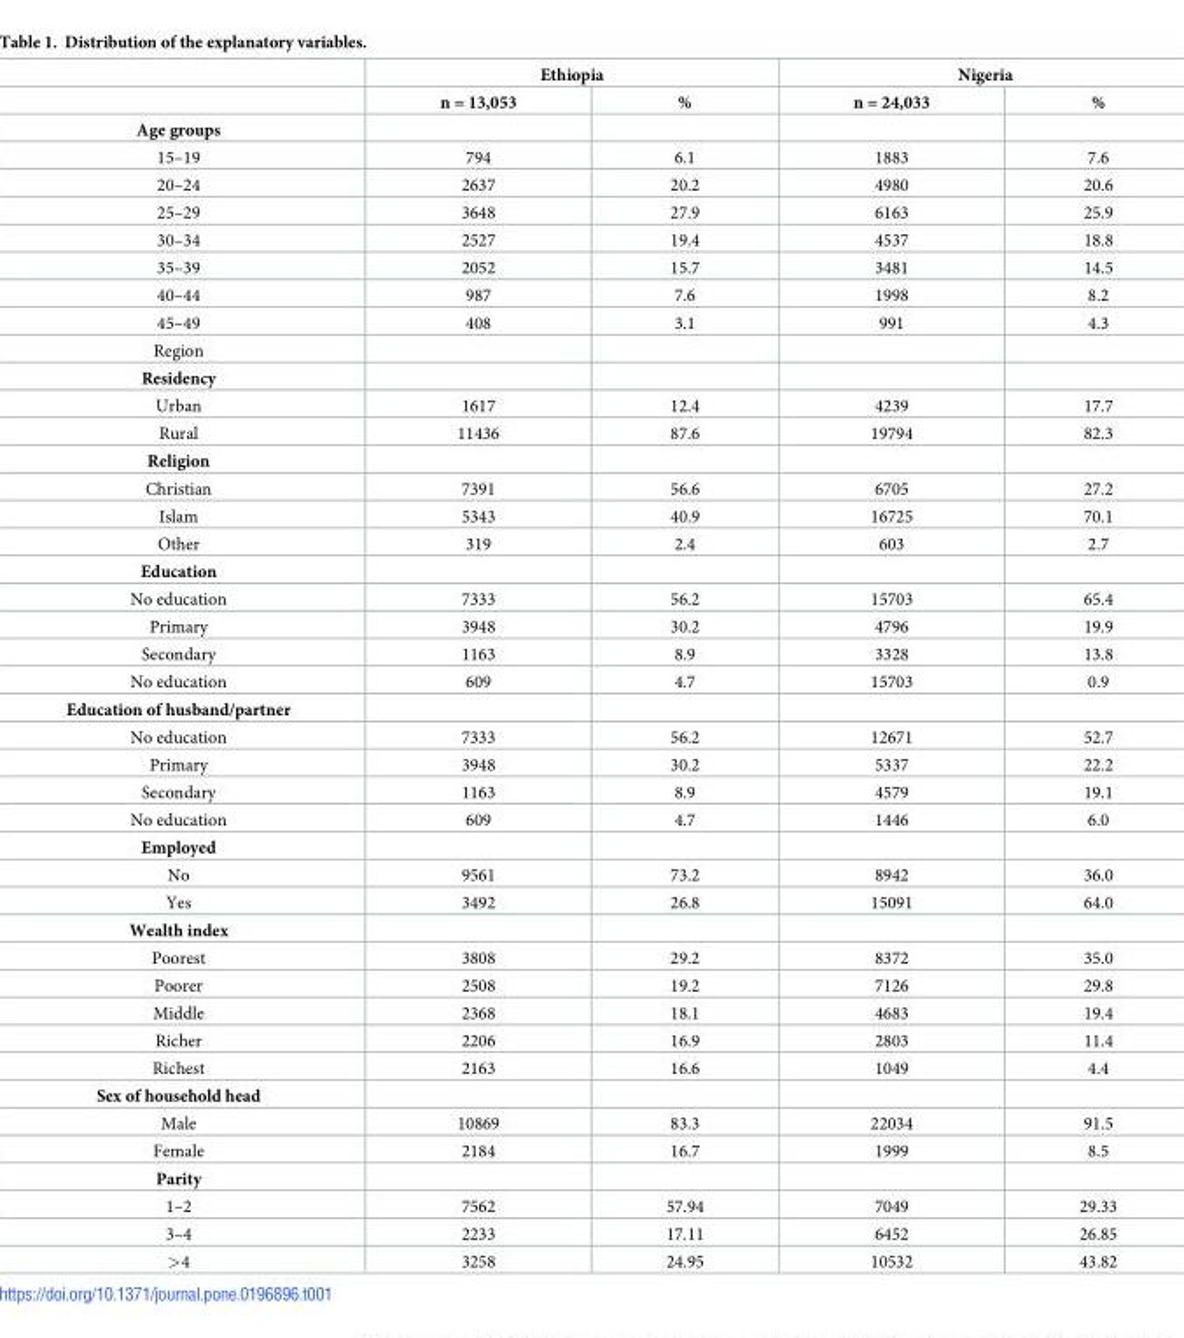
<table><thead><tr><td rowspan="2"></td><td colspan="2">Ethiopia</td><td colspan="2">Nigeria</td></tr><tr><td>n = 13,053</td><td>%</td><td>n = 24,033</td><td>%</td></tr></thead><tbody><tr><td colspan="5">Age groups</td></tr><tr><td>15–19</td><td>794</td><td>6.1</td><td>1883</td><td>7.6</td></tr><tr><td>20–24</td><td>2637</td><td>20.2</td><td>4980</td><td>20.6</td></tr><tr><td>25–29</td><td>3648</td><td>27.9</td><td>6163</td><td>25.9</td></tr><tr><td>30–34</td><td>2527</td><td>19.4</td><td>4537</td><td>18.8</td></tr><tr><td>35–39</td><td>2052</td><td>15.7</td><td>3481</td><td>14.5</td></tr><tr><td>40–44</td><td>987</td><td>7.6</td><td>1998</td><td>8.2</td></tr><tr><td>45–49</td><td>408</td><td>3.1</td><td>991</td><td>4.3</td></tr><tr><td colspan="5">Region</td></tr><tr><td colspan="5">Residency</td></tr><tr><td>Urban</td><td>1617</td><td>12.4</td><td>4239</td><td>17.7</td></tr><tr><td>Rural</td><td>11436</td><td>87.6</td><td>19794</td><td>82.3</td></tr><tr><td colspan="5">Religion</td></tr><tr><td>Christian</td><td>7391</td><td>56.6</td><td>6705</td><td>27.2</td></tr><tr><td>Islam</td><td>5343</td><td>40.9</td><td>16725</td><td>70.1</td></tr><tr><td>Other</td><td>319</td><td>2.4</td><td>603</td><td>2.7</td></tr><tr><td colspan="5">Education</td></tr><tr><td>No education</td><td>7333</td><td>56.2</td><td>15703</td><td>65.4</td></tr><tr><td>Primary</td><td>3948</td><td>30.2</td><td>4796</td><td>19.9</td></tr><tr><td>Secondary</td><td>1163</td><td>8.9</td><td>3328</td><td>13.8</td></tr><tr><td>No education</td><td>609</td><td>4.7</td><td>15703</td><td>0.9</td></tr><tr><td colspan="5">Education of husband/partner</td></tr><tr><td>No education</td><td>7333</td><td>56.2</td><td>12671</td><td>52.7</td></tr><tr><td>Primary</td><td>3948</td><td>30.2</td><td>5337</td><td>22.2</td></tr><tr><td>Secondary</td><td>1163</td><td>8.9</td><td>4579</td><td>19.1</td></tr><tr><td>No education</td><td>609</td><td>4.7</td><td>1446</td><td>6.0</td></tr><tr><td colspan="5">Employed</td></tr><tr><td>No</td><td>9561</td><td>73.2</td><td>8942</td><td>36.0</td></tr><tr><td>Yes</td><td>3492</td><td>26.8</td><td>15091</td><td>64.0</td></tr><tr><td colspan="5">Wealth index</td></tr><tr><td>Poorest</td><td>3808</td><td>29.2</td><td>8372</td><td>35.0</td></tr><tr><td>Poorer</td><td>2508</td><td>19.2</td><td>7126</td><td>29.8</td></tr><tr><td>Middle</td><td>2368</td><td>18.1</td><td>4683</td><td>19.4</td></tr><tr><td>Richer</td><td>2206</td><td>16.9</td><td>2803</td><td>11.4</td></tr><tr><td>Richest</td><td>2163</td><td>16.6</td><td>1049</td><td>4.4</td></tr><tr><td colspan="5">Sex of household head</td></tr><tr><td>Male</td><td>10869</td><td>83.3</td><td>22034</td><td>91.5</td></tr><tr><td>Female</td><td>2184</td><td>16.7</td><td>1999</td><td>8.5</td></tr><tr><td colspan="5">Parity</td></tr><tr><td>1–2</td><td>7562</td><td>57.94</td><td>7049</td><td>29.33</td></tr><tr><td>3–4</td><td>2233</td><td>17.11</td><td>6452</td><td>26.85</td></tr><tr><td>&gt;4</td><td>3258</td><td>24.95</td><td>10532</td><td>43.82</td></tr></tbody></table>